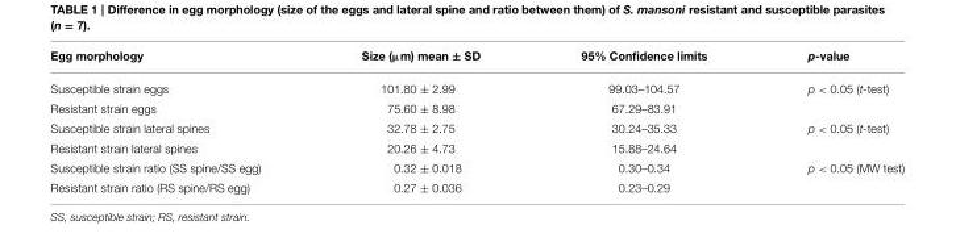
<table><thead><tr><td>Egg morphology</td><td>Size (µm) mean ± SD</td><td>95% Confidence limits</td><td>p-value</td></tr></thead><tbody><tr><td>Susceptible strain eggs</td><td>101.80 ± 2.99</td><td>99.03–104.57</td><td>p &lt; 0.05 (t-test)</td></tr><tr><td>Resistant strain eggs</td><td>75.60 ± 8.98</td><td>67.29–83.91</td><td></td></tr><tr><td>Susceptible strain lateral spines</td><td>32.78 ± 2.75</td><td>30.24–35.33</td><td>p &lt; 0.05 (t-test)</td></tr><tr><td>Resistant strain lateral spines</td><td>20.26 ± 4.73</td><td>15.88–24.64</td><td></td></tr><tr><td>Susceptible strain ratio (SS spine/SS egg)</td><td>0.32 ± 0.018</td><td>0.30–0.34</td><td>p &lt; 0.05 (MW test)</td></tr><tr><td>Resistant strain ratio (RS spine/RS egg)</td><td>0.27 ± 0.036</td><td>0.23–0.29</td><td></td></tr></tbody></table>